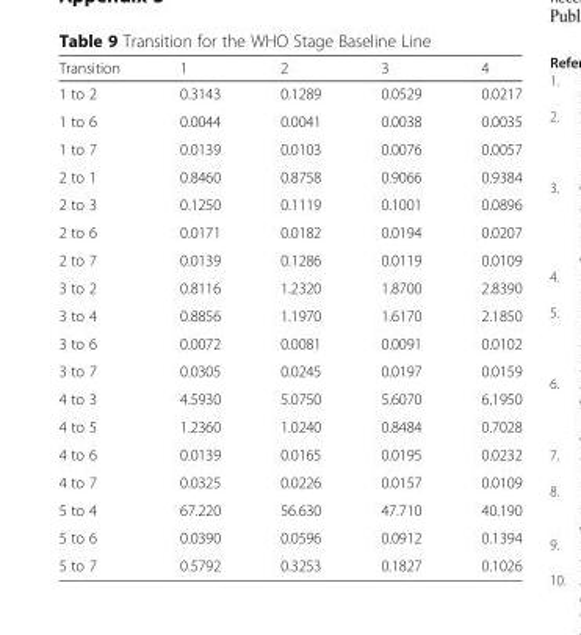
<table><thead><tr><td>Transition</td><td>1</td><td>2</td><td>3</td><td>4</td></tr></thead><tbody><tr><td>1 to 2</td><td>0.3143</td><td>0.1289</td><td>0.0529</td><td>0.0217</td></tr><tr><td>1 to 6</td><td>0.0044</td><td>0.0041</td><td>0.0038</td><td>0.0035</td></tr><tr><td>1 to 7</td><td>0.0139</td><td>0.0103</td><td>0.0076</td><td>0.0057</td></tr><tr><td>2 to 1</td><td>0.8460</td><td>0.8758</td><td>0.9066</td><td>0.9384</td></tr><tr><td>2 to 3</td><td>0.1250</td><td>0.1119</td><td>0.1001</td><td>0.0896</td></tr><tr><td>2 to 6</td><td>0.0171</td><td>0.0182</td><td>0.0194</td><td>0.0207</td></tr><tr><td>2 to 7</td><td>0.0139</td><td>0.1286</td><td>0.0119</td><td>0.0109</td></tr><tr><td>3 to 2</td><td>0.8116</td><td>1.2320</td><td>1.8700</td><td>2.8390</td></tr><tr><td>3 to 4</td><td>0.8856</td><td>1.1970</td><td>1.6170</td><td>2.1850</td></tr><tr><td>3 to 6</td><td>0.0072</td><td>0.0081</td><td>0.0091</td><td>0.0102</td></tr><tr><td>3 to 7</td><td>0.0305</td><td>0.0245</td><td>0.0197</td><td>0.0159</td></tr><tr><td>4 to 3</td><td>4.5930</td><td>5.0750</td><td>5.6070</td><td>6.1950</td></tr><tr><td>4 to 5</td><td>1.2360</td><td>1.0240</td><td>0.8484</td><td>0.7028</td></tr><tr><td>4 to 6</td><td>0.0139</td><td>0.0165</td><td>0.0195</td><td>0.0232</td></tr><tr><td>4 to 7</td><td>0.0325</td><td>0.0226</td><td>0.0157</td><td>0.0109</td></tr><tr><td>5 to 4</td><td>67.220</td><td>56.630</td><td>47.710</td><td>40.190</td></tr><tr><td>5 to 6</td><td>0.0390</td><td>0.0596</td><td>0.0912</td><td>0.1394</td></tr><tr><td>5 to 7</td><td>0.5792</td><td>0.3253</td><td>0.1827</td><td>0.1026</td></tr></tbody></table>